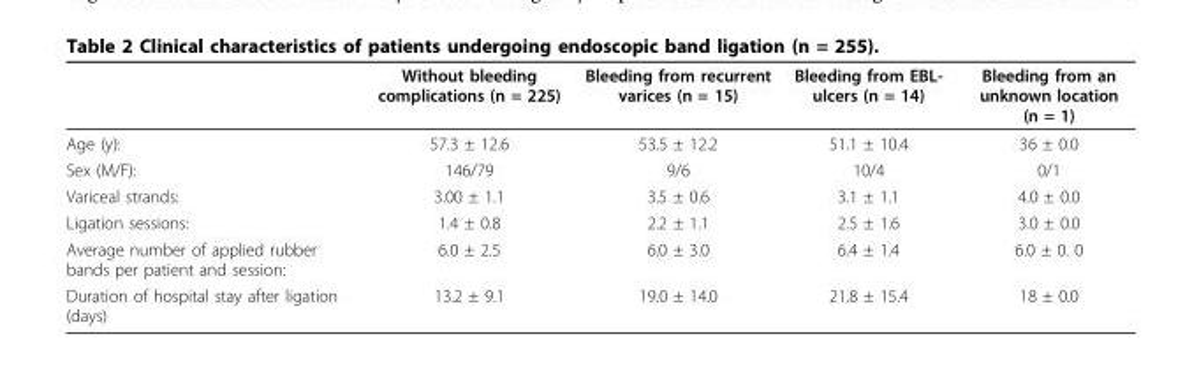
<table><thead><tr><td></td><td>Without bleeding complications (n = 225)</td><td>Bleeding from recurrent varices (n = 15)</td><td>Bleeding from EBL- ulcers (n = 14)</td><td>Bleeding from an unknown location (n = 1)</td></tr></thead><tbody><tr><td>Age (y):</td><td>57.3 ± 12.6</td><td>53.5 ± 12.2</td><td>51.1 ± 10.4</td><td>36 ± 0.0</td></tr><tr><td>Sex (M/F):</td><td>146/79</td><td>9/6</td><td>10/4</td><td>0/1</td></tr><tr><td>Variceal strands:</td><td>3.00 ± 1.1</td><td>3.5 ± 0.6</td><td>3.1 ± 1.1</td><td>4.0 ± 0.0</td></tr><tr><td>Ligation sessions:</td><td>1.4 ± 0.8</td><td>2.2 ± 1.1</td><td>2.5 ± 1.6</td><td>3.0 ± 0.0</td></tr><tr><td>Average number of applied rubber bands per patient and session:</td><td>6.0 ± 2.5</td><td>6.0 ± 3.0</td><td>6.4 ± 1.4</td><td>6.0 ± 0. 0</td></tr><tr><td>Duration of hospital stay after ligation (days)</td><td>13.2 ± 9.1</td><td>19.0 ± 14.0</td><td>21.8 ± 15.4</td><td>18 ± 0.0</td></tr></tbody></table>